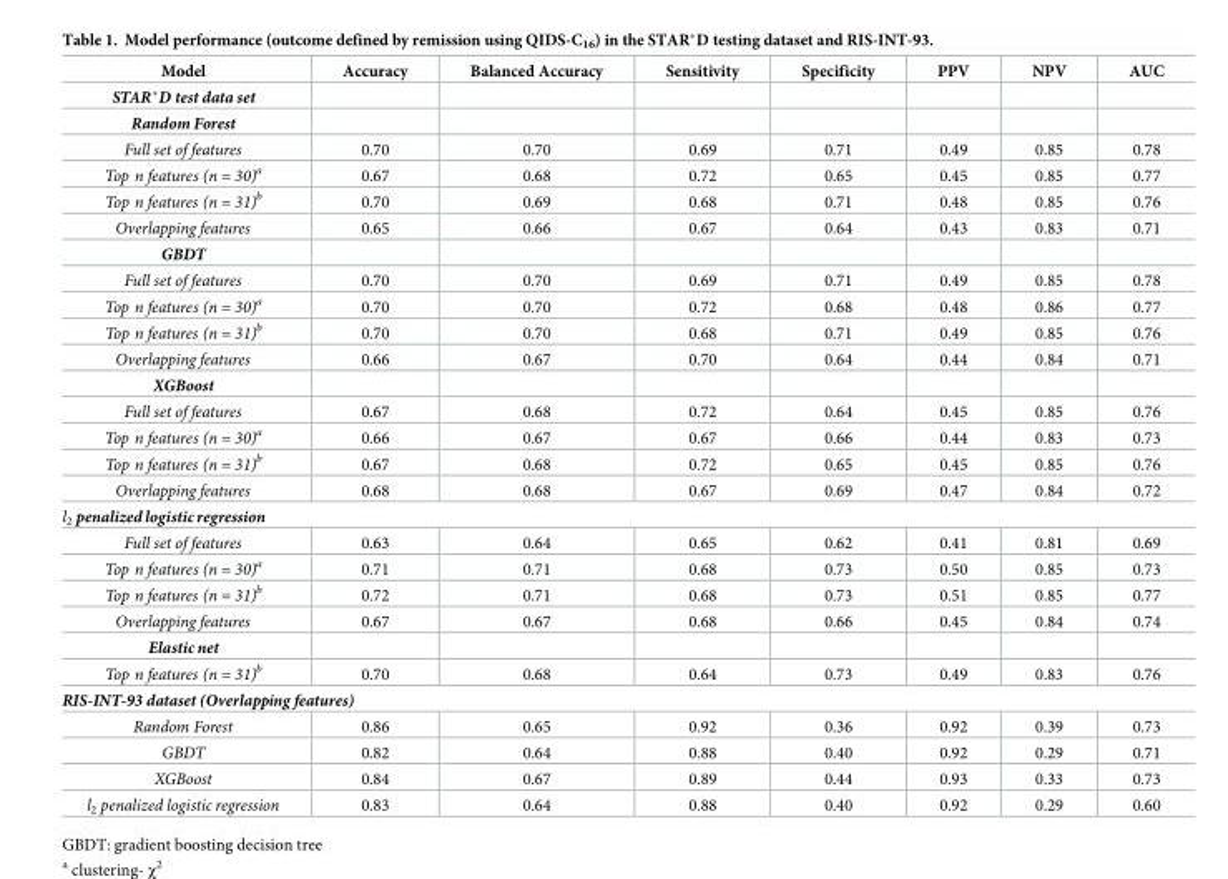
<table><thead><tr><td>Model</td><td>Accuracy</td><td>Balanced Accuracy</td><td>Sensitivity</td><td>Specificity</td><td>PPV</td><td>NPV</td><td>AUC</td></tr></thead><tbody><tr><td colspan="8">STAR*D test data set</td></tr><tr><td colspan="8">Random Forest</td></tr><tr><td>Full set of features</td><td>0.70</td><td>0.70</td><td>0.69</td><td>0.71</td><td>0.49</td><td>0.85</td><td>0.78</td></tr><tr><td>Top n features (n = 30)<sup>a</sup></td><td>0.67</td><td>0.68</td><td>0.72</td><td>0.65</td><td>0.45</td><td>0.85</td><td>0.77</td></tr><tr><td>Top n features (n = 31)<sup>b</sup></td><td>0.70</td><td>0.69</td><td>0.68</td><td>0.71</td><td>0.48</td><td>0.85</td><td>0.76</td></tr><tr><td>Overlapping features</td><td>0.65</td><td>0.66</td><td>0.67</td><td>0.64</td><td>0.43</td><td>0.83</td><td>0.71</td></tr><tr><td colspan="8">GBDT</td></tr><tr><td>Full set of features</td><td>0.70</td><td>0.70</td><td>0.69</td><td>0.71</td><td>0.49</td><td>0.85</td><td>0.78</td></tr><tr><td>Top n features (n = 30)<sup>a</sup></td><td>0.70</td><td>0.70</td><td>0.72</td><td>0.68</td><td>0.48</td><td>0.86</td><td>0.77</td></tr><tr><td>Top n features (n = 31)<sup>b</sup></td><td>0.70</td><td>0.70</td><td>0.68</td><td>0.71</td><td>0.49</td><td>0.85</td><td>0.76</td></tr><tr><td>Overlapping features</td><td>0.66</td><td>0.67</td><td>0.70</td><td>0.64</td><td>0.44</td><td>0.84</td><td>0.71</td></tr><tr><td colspan="8">XGBoost</td></tr><tr><td>Full set of features</td><td>0.67</td><td>0.68</td><td>0.72</td><td>0.64</td><td>0.45</td><td>0.85</td><td>0.76</td></tr><tr><td>Top n features (n = 30)<sup>a</sup></td><td>0.66</td><td>0.67</td><td>0.67</td><td>0.66</td><td>0.44</td><td>0.83</td><td>0.73</td></tr><tr><td>Top n features (n = 31)<sup>b</sup></td><td>0.67</td><td>0.68</td><td>0.72</td><td>0.65</td><td>0.45</td><td>0.85</td><td>0.76</td></tr><tr><td>Overlapping features</td><td>0.68</td><td>0.68</td><td>0.67</td><td>0.69</td><td>0.47</td><td>0.84</td><td>0.72</td></tr><tr><td colspan="8">l<sub>2</sub> penalized logistic regression</td></tr><tr><td>Full set of features</td><td>0.63</td><td>0.64</td><td>0.65</td><td>0.62</td><td>0.41</td><td>0.81</td><td>0.69</td></tr><tr><td>Top n features (n = 30)<sup>a</sup></td><td>0.71</td><td>0.71</td><td>0.68</td><td>0.73</td><td>0.50</td><td>0.85</td><td>0.73</td></tr><tr><td>Top n features (n = 31)<sup>b</sup></td><td>0.72</td><td>0.71</td><td>0.68</td><td>0.73</td><td>0.51</td><td>0.85</td><td>0.77</td></tr><tr><td>Overlapping features</td><td>0.67</td><td>0.67</td><td>0.68</td><td>0.66</td><td>0.45</td><td>0.84</td><td>0.74</td></tr><tr><td colspan="8">Elastic net</td></tr><tr><td>Top n features (n = 31)<sup>b</sup></td><td>0.70</td><td>0.68</td><td>0.64</td><td>0.73</td><td>0.49</td><td>0.83</td><td>0.76</td></tr><tr><td colspan="8">RIS-INT-93 dataset (Overlapping features)</td></tr><tr><td>Random Forest</td><td>0.86</td><td>0.65</td><td>0.92</td><td>0.36</td><td>0.92</td><td>0.39</td><td>0.73</td></tr><tr><td>GBDT</td><td>0.82</td><td>0.64</td><td>0.88</td><td>0.40</td><td>0.92</td><td>0.29</td><td>0.71</td></tr><tr><td>XGBoost</td><td>0.84</td><td>0.67</td><td>0.89</td><td>0.44</td><td>0.93</td><td>0.33</td><td>0.73</td></tr><tr><td>l<sub>2</sub> penalized logistic regression</td><td>0.83</td><td>0.64</td><td>0.88</td><td>0.40</td><td>0.92</td><td>0.29</td><td>0.60</td></tr></tbody></table>